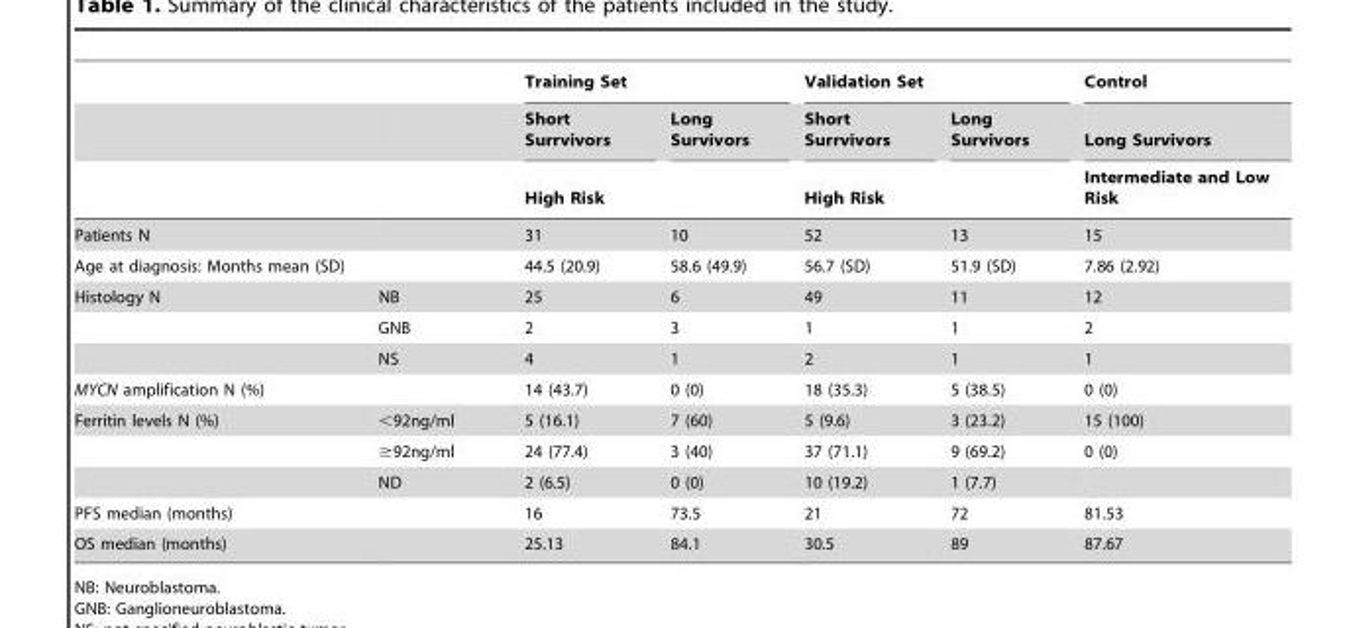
<table><thead><tr><td rowspan="3"></td><td rowspan="3"></td><td colspan="2">Training Set</td><td colspan="2">Validation Set</td><td rowspan="3">Control Long Survivors Intermediate and Low Risk</td></tr><tr><td>Short Surrvivors</td><td>Long Survivors</td><td>Short Surrvivors</td><td>Long Survivors</td></tr><tr><td colspan="2">High Risk</td><td colspan="2">High Risk</td></tr></thead><tbody><tr><td>Patients N</td><td></td><td>31</td><td>10</td><td>52</td><td>13</td><td>15</td></tr><tr><td>Age at diagnosis: Months mean (SD)</td><td></td><td>44.5 (20.9)</td><td>58.6 (49.9)</td><td>56.7 (SD)</td><td>51.9 (SD)</td><td>7.86 (2.92)</td></tr><tr><td rowspan="3">Histology N</td><td>NB</td><td>25</td><td>6</td><td>49</td><td>11</td><td>12</td></tr><tr><td>GNB</td><td>2</td><td>3</td><td>1</td><td>1</td><td>2</td></tr><tr><td>NS</td><td>4</td><td>1</td><td>2</td><td>1</td><td>1</td></tr><tr><td>MYCN amplification N (%)</td><td></td><td>14 (43.7)</td><td>0 (0)</td><td>18 (35.3)</td><td>5 (38.5)</td><td>0 (0)</td></tr><tr><td rowspan="3">Ferritin levels N (%)</td><td>&lt;92ng/ml</td><td>5 (16.1)</td><td>7 (60)</td><td>5 (9.6)</td><td>3 (23.2)</td><td>15 (100)</td></tr><tr><td>≥92ng/ml</td><td>24 (77.4)</td><td>3 (40)</td><td>37 (71.1)</td><td>9 (69.2)</td><td>0 (0)</td></tr><tr><td>ND</td><td>2 (6.5)</td><td>0 (0)</td><td>10 (19.2)</td><td>1 (7.7)</td><td></td></tr><tr><td>PFS median (months)</td><td></td><td>16</td><td>73.5</td><td>21</td><td>72</td><td>81.53</td></tr><tr><td>OS median (months)</td><td></td><td>25.13</td><td>84.1</td><td>30.5</td><td>89</td><td>87.67</td></tr></tbody></table>